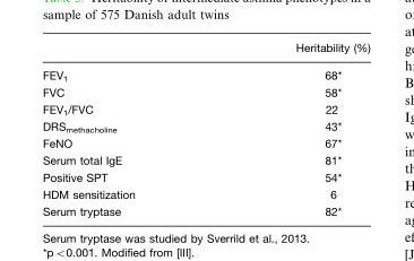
<table><thead><tr><td></td><td>Heritability (%)</td></tr></thead><tbody><tr><td>FEV<sub>1</sub></td><td>68*</td></tr><tr><td>FVC</td><td>58*</td></tr><tr><td>FEV<sub>1</sub>/FVC</td><td>22</td></tr><tr><td>DRS<sub>methacholine</sub></td><td>43*</td></tr><tr><td>FeNO</td><td>67*</td></tr><tr><td>Serum total IgE</td><td>81*</td></tr><tr><td>Positive SPT</td><td>54*</td></tr><tr><td>HDM sensitization</td><td>6</td></tr><tr><td>Serum tryptase</td><td>82*</td></tr></tbody></table>